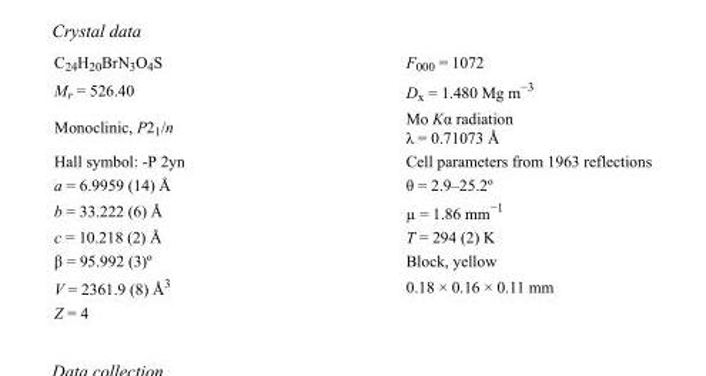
<table><tbody><tr><td>C<sub>24</sub>H<sub>20</sub>BrN<sub>3</sub>O<sub>4</sub>S</td><td>F000 = 1072</td></tr><tr><td>M<sub>r</sub> = 526.40</td><td>D<sub>x</sub> = 1.480 Mg m<sup>−3</sup></td></tr><tr><td>Monoclinic, P2<sub>1</sub>/n</td><td>Mo Kα radiation λ = 0.71073 Å</td></tr><tr><td>Hall symbol: -P 2yn</td><td>Cell parameters from 1963 reflections</td></tr><tr><td>a = 6.9959 (14) Å</td><td>θ = 2.9–25.2º</td></tr><tr><td>b = 33.222 (6) Å</td><td>µ = 1.86 mm<sup>−1</sup></td></tr><tr><td>c = 10.218 (2) Å</td><td>T = 294 (2) K</td></tr><tr><td>β = 95.992 (3)º</td><td>Block, yellow</td></tr><tr><td>V = 2361.9 (8) Å<sup>3</sup></td><td>0.18 × 0.16 × 0.11 mm</td></tr><tr><td>Z = 4</td><td></td></tr></tbody></table>